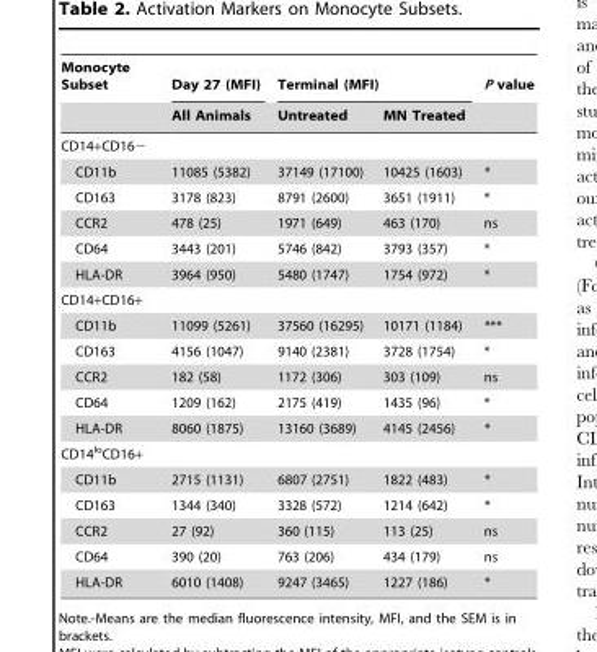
<table><thead><tr><td rowspan="2">Monocyte Subset</td><td rowspan="2">Day 27 (MFI) All Animals</td><td colspan="2">Terminal (MFI)</td><td rowspan="2">P value</td></tr><tr><td>Untreated</td><td>MN Treated</td></tr></thead><tbody><tr><td colspan="5">CD14+CD16−</td></tr><tr><td>CD11b</td><td>11085 (5382)</td><td>37149 (17100)</td><td>10425 (1603)</td><td>*</td></tr><tr><td>CD163</td><td>3178 (823)</td><td>8791 (2600)</td><td>3651 (1911)</td><td>*</td></tr><tr><td>CCR2</td><td>478 (25)</td><td>1971 (649)</td><td>463 (170)</td><td>ns</td></tr><tr><td>CD64</td><td>3443 (201)</td><td>5746 (842)</td><td>3793 (357)</td><td>*</td></tr><tr><td>HLA-DR</td><td>3964 (950)</td><td>5480 (1747)</td><td>1754 (972)</td><td>*</td></tr><tr><td colspan="5">CD14+CD16+</td></tr><tr><td>CD11b</td><td>11099 (5261)</td><td>37560 (16295)</td><td>10171 (1184)</td><td>***</td></tr><tr><td>CD163</td><td>4156 (1047)</td><td>9140 (2381)</td><td>3728 (1754)</td><td>*</td></tr><tr><td>CCR2</td><td>182 (58)</td><td>1172 (306)</td><td>303 (109)</td><td>ns</td></tr><tr><td>CD64</td><td>1209 (162)</td><td>2175 (419)</td><td>1435 (96)</td><td>*</td></tr><tr><td>HLA-DR</td><td>8060 (1875)</td><td>13160 (3689)</td><td>4145 (2456)</td><td>*</td></tr><tr><td colspan="5">CD14<sup>lo</sup>CD16+</td></tr><tr><td>CD11b</td><td>2715 (1131)</td><td>6807 (2751)</td><td>1822 (483)</td><td>*</td></tr><tr><td>CD163</td><td>1344 (340)</td><td>3328 (572)</td><td>1214 (642)</td><td>*</td></tr><tr><td>CCR2</td><td>27 (92)</td><td>360 (115)</td><td>113 (25)</td><td>ns</td></tr><tr><td>CD64</td><td>390 (20)</td><td>763 (206)</td><td>434 (179)</td><td>ns</td></tr><tr><td>HLA-DR</td><td>6010 (1408)</td><td>9247 (3465)</td><td>1227 (186)</td><td>*</td></tr></tbody></table>